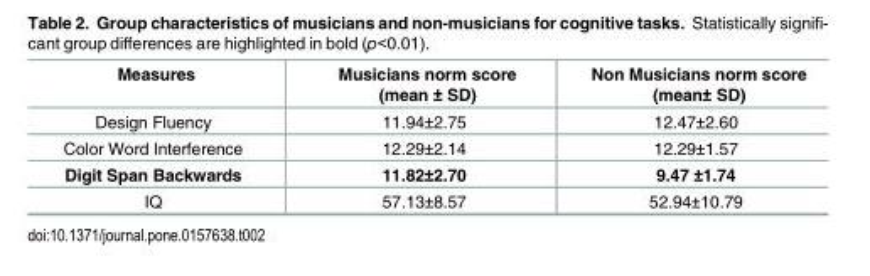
<table><thead><tr><td>Measures</td><td>Musicians norm score (mean ± SD)</td><td>Non Musicians norm score (mean± SD)</td></tr></thead><tbody><tr><td>Design Fluency</td><td>11.94±2.75</td><td>12.47±2.60</td></tr><tr><td>Color Word Interference</td><td>12.29±2.14</td><td>12.29±1.57</td></tr><tr><td>Digit Span Backwards</td><td>11.82±2.70</td><td>9.47 ±1.74</td></tr><tr><td>IQ</td><td>57.13±8.57</td><td>52.94±10.79</td></tr></tbody></table>